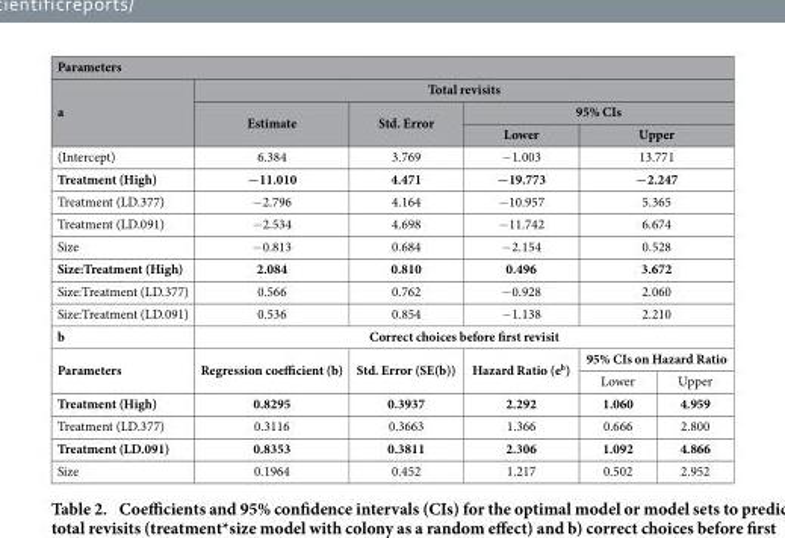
<table><thead><tr><td colspan="6">Parameters</td></tr></thead><tbody><tr><td rowspan="3">a</td><td colspan="5">Total revisits</td></tr><tr><td rowspan="2">Estimate</td><td rowspan="2">Std. Error</td><td colspan="3">95% CIs</td></tr><tr><td>Lower</td><td colspan="2">Upper</td></tr><tr><td>(Intercept)</td><td>6.384</td><td>3.769</td><td>− 1.003</td><td colspan="2">13.771</td></tr><tr><td>Treatment (High)</td><td>−11.010</td><td>4.471</td><td>−19.773</td><td colspan="2">−2.247</td></tr><tr><td>Treatment (LD.377)</td><td>− 2.796</td><td>4.164</td><td>− 10.957</td><td colspan="2">5.365</td></tr><tr><td>Treatment (LD.091)</td><td>− 2.534</td><td>4.698</td><td>− 11.742</td><td colspan="2">6.674</td></tr><tr><td>Size</td><td>− 0.813</td><td>0.684</td><td>− 2.154</td><td colspan="2">0.528</td></tr><tr><td>Size:Treatment (High)</td><td>2.084</td><td>0.810</td><td>0.496</td><td colspan="2">3.672</td></tr><tr><td>Size:Treatment (LD.377)</td><td>0.566</td><td>0.762</td><td>− 0.928</td><td colspan="2">2.060</td></tr><tr><td>Size:Treatment (LD.091)</td><td>0.536</td><td>0.854</td><td>− 1.138</td><td colspan="2">2.210</td></tr><tr><td>b</td><td colspan="5">Correct choices before first revisit</td></tr><tr><td rowspan="2">Parameters</td><td rowspan="2">Regression coefficient (b)</td><td rowspan="2">Std. Error (SE(b))</td><td rowspan="2">Hazard Ratio (e<sup>b</sup>)</td><td colspan="2">95% CIs on Hazard Ratio</td></tr><tr><td>Lower</td><td>Upper</td></tr><tr><td>Treatment (High)</td><td>0.8295</td><td>0.3937</td><td>2.292</td><td>1.060</td><td>4.959</td></tr><tr><td>Treatment (LD.377)</td><td>0.3116</td><td>0.3663</td><td>1.366</td><td>0.666</td><td>2.800</td></tr><tr><td>Treatment (LD.091)</td><td>0.8353</td><td>0.3811</td><td>2.306</td><td>1.092</td><td>4.866</td></tr><tr><td>Size</td><td>0.1964</td><td>0.452</td><td>1.217</td><td>0.502</td><td>2.952</td></tr></tbody></table>